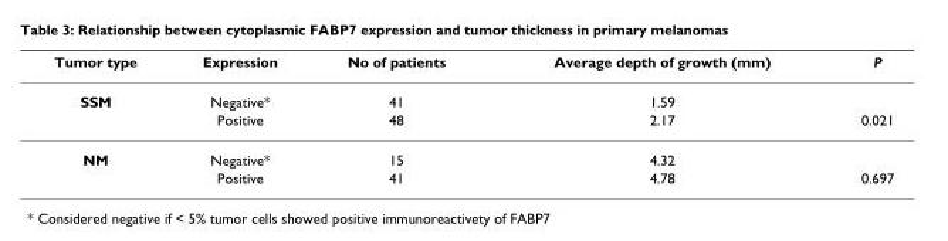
<table><thead><tr><td>Tumor type</td><td>Expression</td><td>No of patients</td><td>Average depth of growth (mm)</td><td>P</td></tr></thead><tbody><tr><td rowspan="2">SSM</td><td>Negative*</td><td>41</td><td>1.59</td><td></td></tr><tr><td>Positive</td><td>48</td><td>2.17</td><td>0.021</td></tr><tr><td rowspan="2">NM</td><td>Negative*</td><td>15</td><td>4.32</td><td></td></tr><tr><td>Positive</td><td>41</td><td>4.78</td><td>0.697</td></tr></tbody></table>